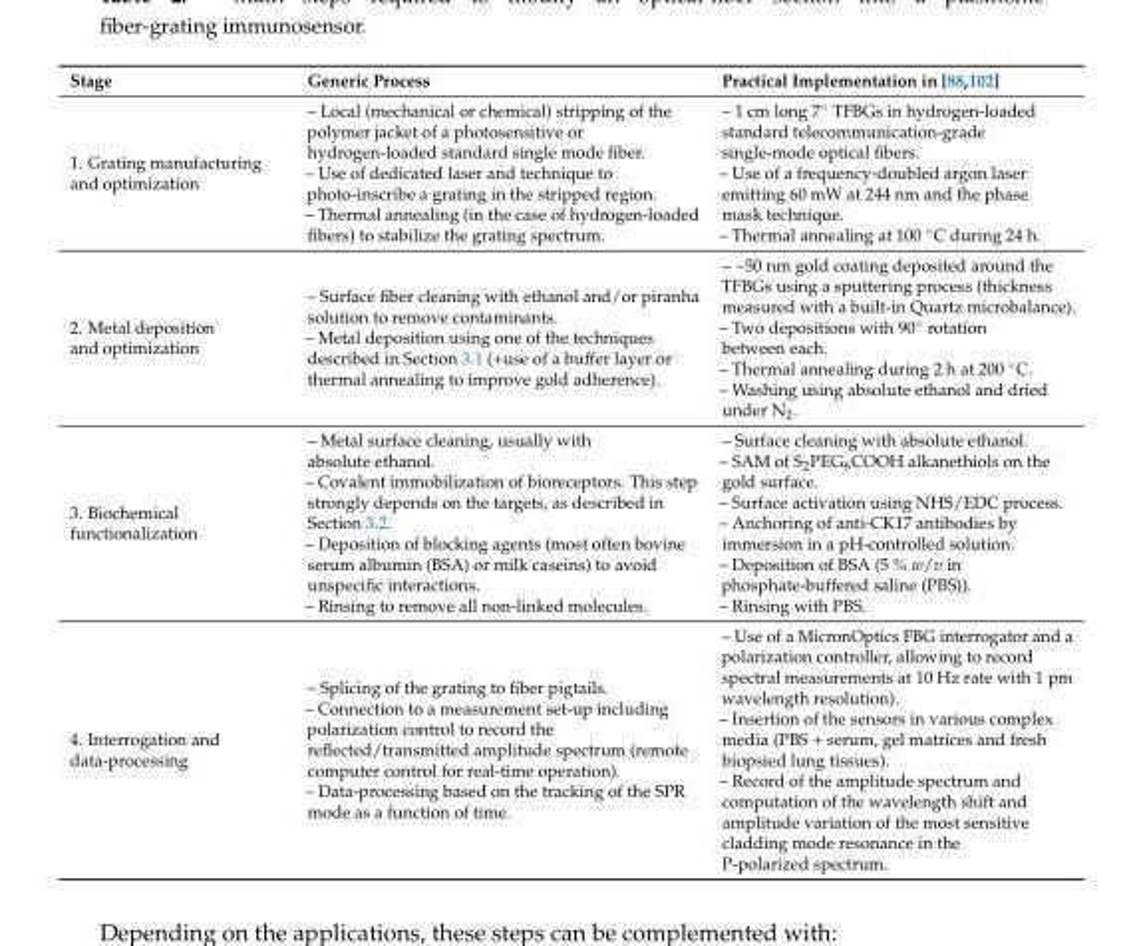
<table><thead><tr><td>Stage</td><td>Generic Process</td><td>Practical Implementation in [88,102]</td></tr></thead><tbody><tr><td>1. Grating manufacturing and optimization</td><td>– Local (mechanical or chemical) stripping of the polymer jacket of a photosensitive or hydrogen-loaded standard single mode fiber. – Use of dedicated laser and technique to photo-inscribe a grating in the stripped region. – Thermal annealing (in the case of hydrogen-loaded fibers) to stabilize the grating spectrum.</td><td>– 1 cm long 7◦ TFBGs in hydrogen-loaded standard telecommunication-grade single-mode optical fibers. – Use of a frequency-doubled argon laser emitting 60 mW at 244 nm and the phase mask technique. – Thermal annealing at 100 ◦C during 24 h.</td></tr><tr><td>2. Metal deposition and optimization</td><td>– Surface fiber cleaning with ethanol and/or piranha solution to remove contaminants. – Metal deposition using one of the techniques described in Section 3.1 (+use of a buffer layer or thermal annealing to improve gold adherence).</td><td>– ~50 nm gold coating deposited around the TFBGs using a sputtering process (thickness measured with a built-in Quartz microbalance). – Two depositions with 90◦ rotation between each. – Thermal annealing during 2 h at 200 ◦C. – Washing using absolute ethanol and dried under N2.</td></tr><tr><td>3. Biochemical functionalization</td><td>– Metal surface cleaning, usually with absolute ethanol. – Covalent immobilization of bioreceptors. This step strongly depends on the targets, as described in Section 3.2. – Deposition of blocking agents (most often bovine serum albumin (BSA) or milk caseins) to avoid unspecific interactions. – Rinsing to remove all non-linked molecules.</td><td>– Surface cleaning with absolute ethanol. – SAM of S<sub>2</sub>PEG<sub>6</sub>COOH alkanethiols on the gold surface. – Surface activation using NHS/EDC process. – Anchoring of anti-CK17 antibodies by immersion in a pH-controlled solution. – Deposition of BSA (5 % w/v in phosphate-buffered saline (PBS)). – Rinsing with PBS.</td></tr><tr><td>4. Interrogation and data-processing</td><td>– Splicing of the grating to fiber pigtails. – Connection to a measurement set-up including polarization control to record the reflected/transmitted amplitude spectrum (remote computer control for real-time operation). – Data-processing based on the tracking of the SPR mode as a function of time.</td><td>– Use of a MicronOptics FBG interrogator and a polarization controller, allowing to record spectral measurements at 10 Hz rate with 1 pm wavelength resolution). – Insertion of the sensors in various complex media (PBS + serum, gel matrices and fresh biopsied lung tissues). – Record of the amplitude spectrum and computation of the wavelength shift and amplitude variation of the most sensitive cladding mode resonance in the P-polarized spectrum.</td></tr></tbody></table>